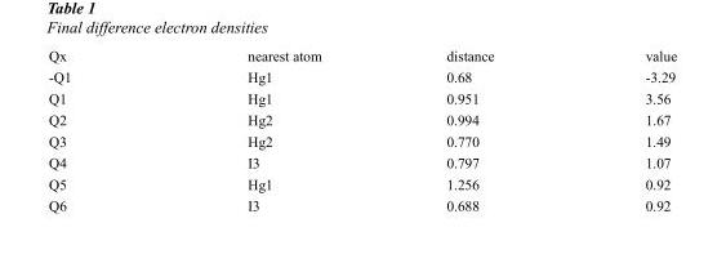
<table><tbody><tr><td>Qx</td><td>nearest atom</td><td>distance</td><td>value</td></tr><tr><td>-Q1</td><td>Hg1</td><td>0.68</td><td>-3.29</td></tr><tr><td>Q1</td><td>Hg1</td><td>0.951</td><td>3.56</td></tr><tr><td>Q2</td><td>Hg2</td><td>0.994</td><td>1.67</td></tr><tr><td>Q3</td><td>Hg2</td><td>0.770</td><td>1.49</td></tr><tr><td>Q4</td><td>I3</td><td>0.797</td><td>1.07</td></tr><tr><td>Q5</td><td>Hg1</td><td>1.256</td><td>0.92</td></tr><tr><td>Q6</td><td>I3</td><td>0.688</td><td>0.92</td></tr></tbody></table>